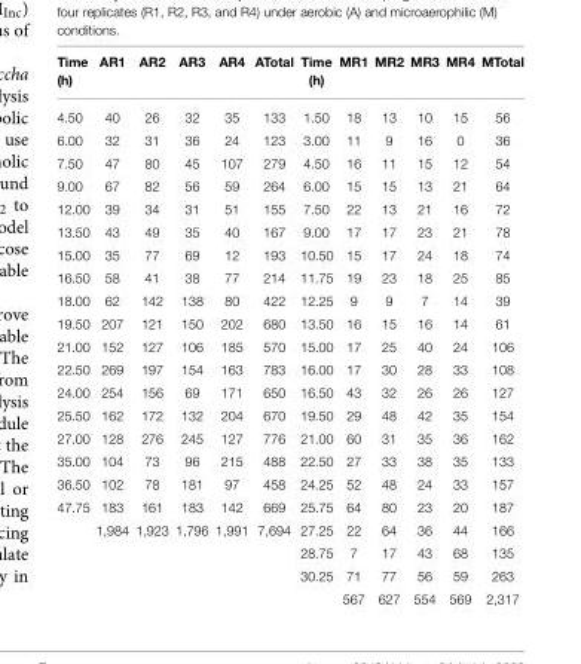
<table><thead><tr><td>Time (h)</td><td>AR1</td><td>AR2</td><td>AR3</td><td>AR4</td><td>ATotal</td><td>Time (h)</td><td>MR1</td><td>MR2</td><td>MR3</td><td>MR4</td><td>MTotal</td></tr></thead><tbody><tr><td>4.50</td><td>40</td><td>26</td><td>32</td><td>35</td><td>133</td><td>1.50</td><td>18</td><td>13</td><td>10</td><td>15</td><td>56</td></tr><tr><td>6.00</td><td>32</td><td>31</td><td>36</td><td>24</td><td>123</td><td>3.00</td><td>11</td><td>9</td><td>16</td><td>0</td><td>36</td></tr><tr><td>7.50</td><td>47</td><td>80</td><td>45</td><td>107</td><td>279</td><td>4.50</td><td>16</td><td>11</td><td>15</td><td>12</td><td>54</td></tr><tr><td>9.00</td><td>67</td><td>82</td><td>56</td><td>59</td><td>264</td><td>6.00</td><td>15</td><td>15</td><td>13</td><td>21</td><td>64</td></tr><tr><td>12.00</td><td>39</td><td>34</td><td>31</td><td>51</td><td>155</td><td>7.50</td><td>22</td><td>13</td><td>21</td><td>16</td><td>72</td></tr><tr><td>13.50</td><td>43</td><td>49</td><td>35</td><td>40</td><td>167</td><td>9.00</td><td>17</td><td>17</td><td>23</td><td>21</td><td>78</td></tr><tr><td>15.00</td><td>35</td><td>77</td><td>69</td><td>12</td><td>193</td><td>10.50</td><td>15</td><td>17</td><td>24</td><td>18</td><td>74</td></tr><tr><td>16.50</td><td>58</td><td>41</td><td>38</td><td>77</td><td>214</td><td>11.75</td><td>19</td><td>23</td><td>18</td><td>25</td><td>85</td></tr><tr><td>18.00</td><td>62</td><td>142</td><td>138</td><td>80</td><td>422</td><td>12.25</td><td>9</td><td>9</td><td>7</td><td>14</td><td>39</td></tr><tr><td>19.50</td><td>207</td><td>121</td><td>150</td><td>202</td><td>680</td><td>13.50</td><td>16</td><td>15</td><td>16</td><td>14</td><td>61</td></tr><tr><td>21.00</td><td>152</td><td>127</td><td>106</td><td>185</td><td>570</td><td>15.00</td><td>17</td><td>25</td><td>40</td><td>24</td><td>106</td></tr><tr><td>22.50</td><td>269</td><td>197</td><td>154</td><td>163</td><td>783</td><td>16.00</td><td>17</td><td>30</td><td>28</td><td>33</td><td>108</td></tr><tr><td>24.00</td><td>254</td><td>156</td><td>69</td><td>171</td><td>650</td><td>16.50</td><td>43</td><td>32</td><td>26</td><td>26</td><td>127</td></tr><tr><td>25.50</td><td>162</td><td>172</td><td>132</td><td>204</td><td>670</td><td>19.50</td><td>29</td><td>48</td><td>42</td><td>35</td><td>154</td></tr><tr><td>27.00</td><td>128</td><td>276</td><td>245</td><td>127</td><td>776</td><td>21.00</td><td>60</td><td>31</td><td>35</td><td>36</td><td>162</td></tr><tr><td>35.00</td><td>104</td><td>73</td><td>96</td><td>215</td><td>488</td><td>22.50</td><td>27</td><td>33</td><td>38</td><td>35</td><td>133</td></tr><tr><td>36.50</td><td>102</td><td>78</td><td>181</td><td>97</td><td>458</td><td>24.25</td><td>52</td><td>48</td><td>24</td><td>33</td><td>157</td></tr><tr><td rowspan="5">47.75</td><td>183</td><td>161</td><td>183</td><td>142</td><td>669</td><td>25.75</td><td>64</td><td>80</td><td>23</td><td>20</td><td>187</td></tr><tr><td>1,984</td><td>1,923</td><td>1,796</td><td>1,991</td><td>7,694</td><td>27.25</td><td>22</td><td>64</td><td>36</td><td>44</td><td>166</td></tr><tr><td></td><td></td><td></td><td></td><td></td><td>28.75</td><td>7</td><td>17</td><td>43</td><td>68</td><td>135</td></tr><tr><td></td><td></td><td></td><td></td><td></td><td>30.25</td><td>71</td><td>77</td><td>56</td><td>59</td><td>263</td></tr><tr><td></td><td></td><td></td><td></td><td></td><td></td><td>567</td><td>627</td><td>554</td><td>569</td><td>2,317</td></tr></tbody></table>